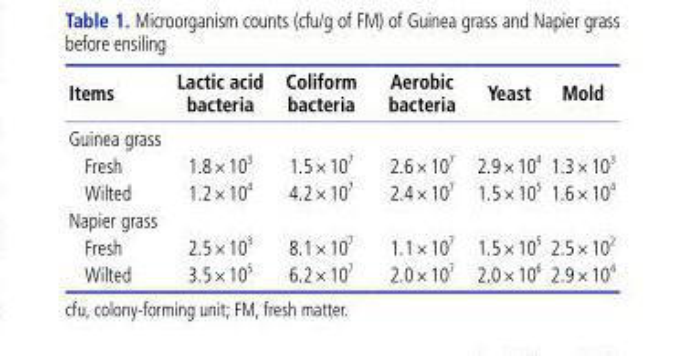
<table><thead><tr><td>Items</td><td>Lactic acid bacteria</td><td>Coliform bacteria</td><td>Aerobic bacteria</td><td>Yeast</td><td>Mold</td></tr></thead><tbody><tr><td colspan="6">Guinea grass</td></tr><tr><td>Fresh</td><td>1.8×10 <sup>3</sup></td><td>1.5×10 <sup>7</sup></td><td>2.6×10 <sup>7</sup></td><td>2.9×10 <sup>4</sup></td><td>1.3×10 <sup>3</sup></td></tr><tr><td>Wilted</td><td>1.2×10 <sup>4</sup></td><td>4.2×10 <sup>7</sup></td><td>2.4×10 <sup>7</sup></td><td>1.5×10 <sup>5</sup></td><td>1.6×10 <sup>4</sup></td></tr><tr><td colspan="6">Napier grass</td></tr><tr><td>Fresh</td><td>2.5×10 <sup>3</sup></td><td>8.1×10 <sup>7</sup></td><td>1.1×10 <sup>7</sup></td><td>1.5×10 <sup>5</sup></td><td>2.5×10 <sup>2</sup></td></tr><tr><td>Wilted</td><td>3.5×10 <sup>5</sup></td><td>6.2×10 <sup>7</sup></td><td>2.0×10 <sup>7</sup></td><td>2.0×10 <sup>6</sup></td><td>2.9×10 <sup>4</sup></td></tr></tbody></table>